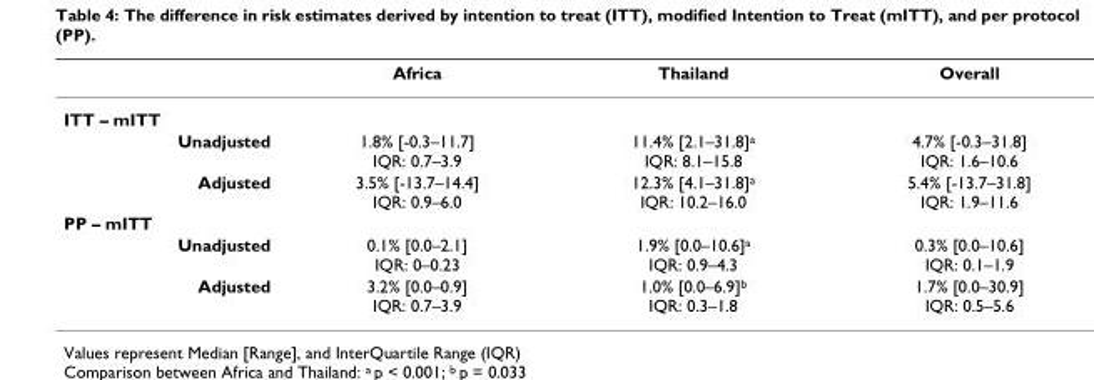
<table><thead><tr><td></td><td>Africa</td><td>Thailand</td><td>Overall</td></tr></thead><tbody><tr><td colspan="4">ITT – mITT</td></tr><tr><td>Unadjusted</td><td>1.8% [-0.3–11.7] IQR: 0.7–3.9</td><td>11.4% [2.1–31.8]<sup>a</sup> IQR: 8.1–15.8</td><td>4.7% [-0.3–31.8] IQR: 1.6–10.6</td></tr><tr><td>Adjusted</td><td>3.5% [-13.7–14.4] IQR: 0.9–6.0</td><td>12.3% [4.1–31.8]<sup>a</sup> IQR: 10.2–16.0</td><td>5.4% [-13.7–31.8] IQR: 1.9–11.6</td></tr><tr><td colspan="4">PP – mITT</td></tr><tr><td>Unadjusted</td><td>0.1% [0.0–2.1] IQR: 0–0.23</td><td>1.9% [0.0–10.6]<sup>a</sup> IQR: 0.9–4.3</td><td>0.3% [0.0–10.6] IQR: 0.1–1.9</td></tr><tr><td>Adjusted</td><td>3.2% [0.0–0.9] IQR: 0.7–3.9</td><td>1.0% [0.0–6.9]<sup>b</sup> IQR: 0.3–1.8</td><td>1.7% [0.0–30.9] IQR: 0.5–5.6</td></tr></tbody></table>